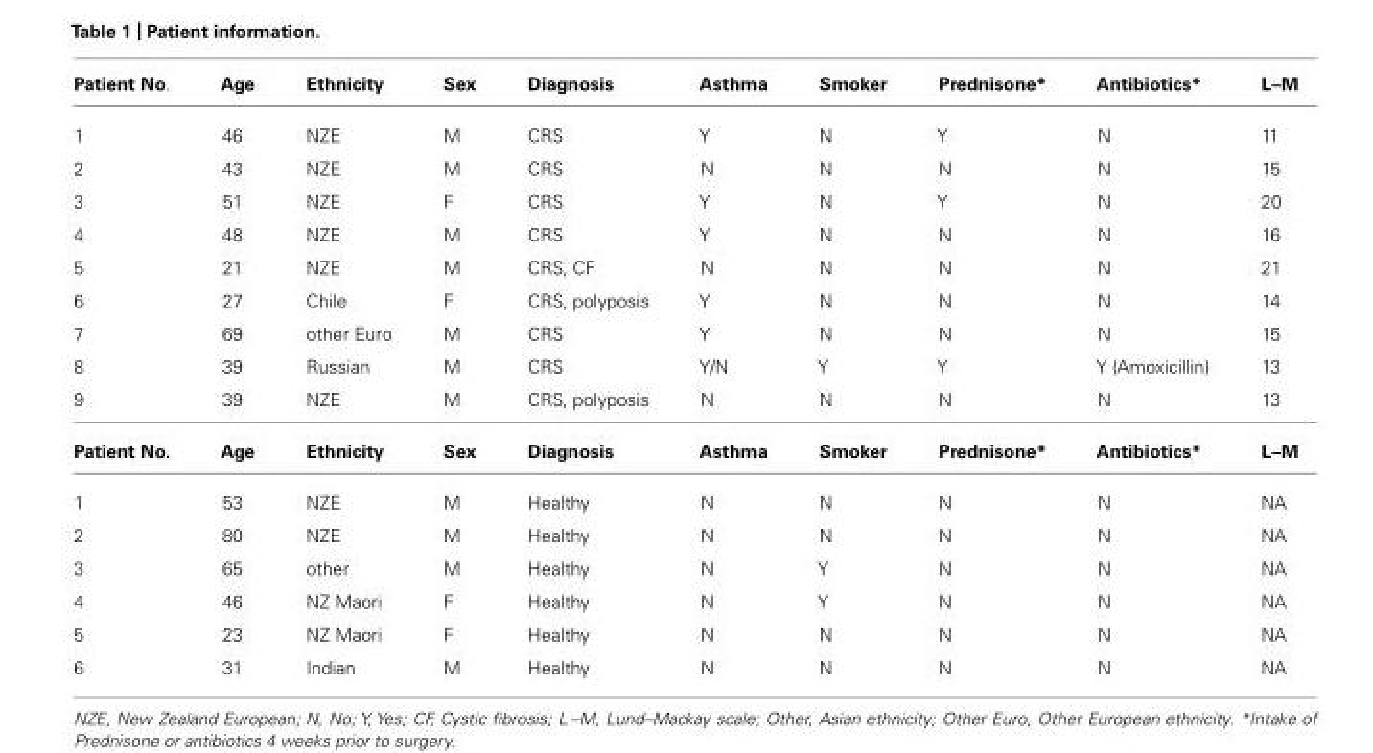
<table><thead><tr><td>Patient No.</td><td>Age</td><td>Ethnicity</td><td>Sex</td><td>Diagnosis</td><td>Asthma</td><td>Smoker</td><td>Prednisone*</td><td>Antibiotics*</td><td>L–M</td></tr></thead><tbody><tr><td>1</td><td>46</td><td>NZE</td><td>M</td><td>CRS</td><td>Y</td><td>N</td><td>Y</td><td>N</td><td>11</td></tr><tr><td>2</td><td>43</td><td>NZE</td><td>M</td><td>CRS</td><td>N</td><td>N</td><td>N</td><td>N</td><td>15</td></tr><tr><td>3</td><td>51</td><td>NZE</td><td>F</td><td>CRS</td><td>Y</td><td>N</td><td>Y</td><td>N</td><td>20</td></tr><tr><td>4</td><td>48</td><td>NZE</td><td>M</td><td>CRS</td><td>Y</td><td>N</td><td>N</td><td>N</td><td>16</td></tr><tr><td>5</td><td>21</td><td>NZE</td><td>M</td><td>CRS, CF</td><td>N</td><td>N</td><td>N</td><td>N</td><td>21</td></tr><tr><td>6</td><td>27</td><td>Chile</td><td>F</td><td>CRS, polyposis</td><td>Y</td><td>N</td><td>N</td><td>N</td><td>14</td></tr><tr><td>7</td><td>69</td><td>other Euro</td><td>M</td><td>CRS</td><td>Y</td><td>N</td><td>N</td><td>N</td><td>15</td></tr><tr><td>8</td><td>39</td><td>Russian</td><td>M</td><td>CRS</td><td>Y/N</td><td>Y</td><td>Y</td><td>Y (Amoxicillin)</td><td>13</td></tr><tr><td>9</td><td>39</td><td>NZE</td><td>M</td><td>CRS, polyposis</td><td>N</td><td>N</td><td>N</td><td>N</td><td>13</td></tr><tr><td>Patient No.</td><td>Age</td><td>Ethnicity</td><td>Sex</td><td>Diagnosis</td><td>Asthma</td><td>Smoker</td><td>Prednisone*</td><td>Antibiotics*</td><td>L–M</td></tr><tr><td>1</td><td>53</td><td>NZE</td><td>M</td><td>Healthy</td><td>N</td><td>N</td><td>N</td><td>N</td><td>NA</td></tr><tr><td>2</td><td>80</td><td>NZE</td><td>M</td><td>Healthy</td><td>N</td><td>N</td><td>N</td><td>N</td><td>NA</td></tr><tr><td>3</td><td>65</td><td>other</td><td>M</td><td>Healthy</td><td>N</td><td>Y</td><td>N</td><td>N</td><td>NA</td></tr><tr><td>4</td><td>46</td><td>NZ Maori</td><td>F</td><td>Healthy</td><td>N</td><td>Y</td><td>N</td><td>N</td><td>NA</td></tr><tr><td>5</td><td>23</td><td>NZ Maori</td><td>F</td><td>Healthy</td><td>N</td><td>N</td><td>N</td><td>N</td><td>NA</td></tr><tr><td>6</td><td>31</td><td>Indian</td><td>M</td><td>Healthy</td><td>N</td><td>N</td><td>N</td><td>N</td><td>NA</td></tr></tbody></table>